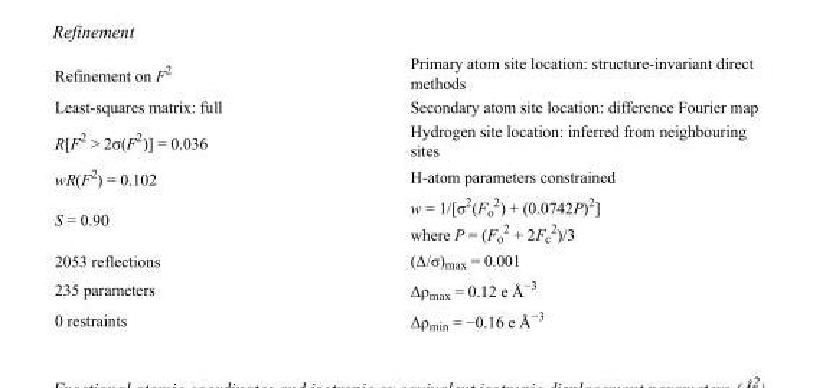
<table><tbody><tr><td>Refinement on F<sup>2</sup></td><td>Primary atom site location: structure-invariant direct methods</td></tr><tr><td>Least-squares matrix: full</td><td>Secondary atom site location: difference Fourier map</td></tr><tr><td>R[F<sup>2</sup> &gt; 2σ(F<sup>2</sup>)] = 0.036</td><td>Hydrogen site location: inferred from neighbouring sites</td></tr><tr><td>wR(F<sup>2</sup>) = 0.102</td><td>H-atom parameters constrained</td></tr><tr><td>S = 0.90</td><td>w = 1/[σ<sup>2</sup>(F<sub>o</sub> <sup>2</sup>) + (0.0742P)<sup>2</sup>] where P = (F<sub>o</sub> <sup>2</sup> + 2F<sub>c</sub> <sup>2</sup>)/3</td></tr><tr><td>2053 reflections</td><td>(Δ/σ)<sub>max</sub> = 0.001</td></tr><tr><td>235 parameters</td><td>Δρ<sub>max</sub> = 0.12 e Å<sup>−3</sup></td></tr><tr><td>0 restraints</td><td>Δρ<sub>min</sub> = −0.16 e Å<sup>−3</sup></td></tr></tbody></table>